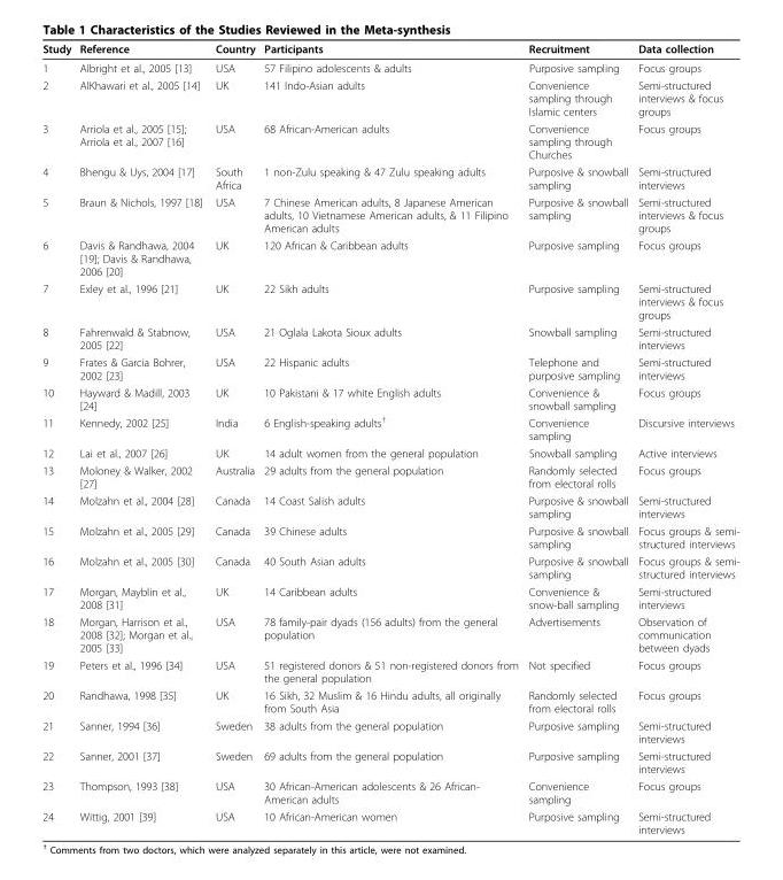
<table><thead><tr><td>Study</td><td>Reference</td><td>Country</td><td>Participants</td><td>Recruitment</td><td>Data collection</td></tr></thead><tbody><tr><td>1</td><td>Albright et al., 2005 [13]</td><td>USA</td><td>57 Filipino adolescents &amp; adults</td><td>Purposive sampling</td><td>Focus groups</td></tr><tr><td>2</td><td>AlKhawari et al., 2005 [14]</td><td>UK</td><td>141 Indo-Asian adults</td><td>Convenience sampling through Islamic centers</td><td>Semi-structured interviews &amp; focus groups</td></tr><tr><td>3</td><td>Arriola et al., 2005 [15]; Arriola et al., 2007 [16]</td><td>USA</td><td>68 African-American adults</td><td>Convenience sampling through Churches</td><td>Focus groups</td></tr><tr><td>4</td><td>Bhengu &amp; Uys, 2004 [17]</td><td>South Africa</td><td>1 non-Zulu speaking &amp; 47 Zulu speaking adults</td><td>Purposive &amp; snowball sampling</td><td>Semi-structured interviews</td></tr><tr><td>5</td><td>Braun &amp; Nichols, 1997 [18]</td><td>USA</td><td>7 Chinese American adults, 8 Japanese American adults, 10 Vietnamese American adults, &amp; 11 Filipino American adults</td><td>Purposive &amp; snowball sampling</td><td>Semi-structured interviews &amp; focus groups</td></tr><tr><td>6</td><td>Davis &amp; Randhawa, 2004 [19]; Davis &amp; Randhawa, 2006 [20]</td><td>UK</td><td>120 African &amp; Caribbean adults</td><td>Purposive sampling</td><td>Focus groups</td></tr><tr><td>7</td><td>Exley et al., 1996 [21]</td><td>UK</td><td>22 Sikh adults</td><td>Purposive sampling</td><td>Semi-structured interviews &amp; focus groups</td></tr><tr><td>8</td><td>Fahrenwald &amp; Stabnow, 2005 [22]</td><td>USA</td><td>21 Oglala Lakota Sioux adults</td><td>Snowball sampling</td><td>Semi-structured interviews</td></tr><tr><td>9</td><td>Frates &amp; Garcia Bohrer, 2002 [23]</td><td>USA</td><td>22 Hispanic adults</td><td>Telephone and purposive sampling</td><td>Semi-structured interviews</td></tr><tr><td>10</td><td>Hayward &amp; Madill, 2003 [24]</td><td>UK</td><td>10 Pakistani &amp; 17 white English adults</td><td>Convenience &amp; snowball sampling</td><td>Focus groups</td></tr><tr><td>11</td><td>Kennedy, 2002 [25]</td><td>India</td><td>6 English-speaking adults<sup>†</sup></td><td>Convenience sampling</td><td>Discursive interviews</td></tr><tr><td>12</td><td>Lai et al., 2007 [26]</td><td>UK</td><td>14 adult women from the general population</td><td>Snowball sampling</td><td>Active interviews</td></tr><tr><td>13</td><td>Moloney &amp; Walker, 2002 [27]</td><td>Australia</td><td>29 adults from the general population</td><td>Randomly selected from electoral rolls</td><td>Focus groups</td></tr><tr><td>14</td><td>Molzahn et al., 2004 [28]</td><td>Canada</td><td>14 Coast Salish adults</td><td>Purposive &amp; snowball sampling</td><td>Semi-structured interviews</td></tr><tr><td>15</td><td>Molzahn et al., 2005 [29]</td><td>Canada</td><td>39 Chinese adults</td><td>Purposive &amp; snowball sampling</td><td>Focus groups &amp; semi- structured interviews</td></tr><tr><td>16</td><td>Molzahn et al., 2005 [30]</td><td>Canada</td><td>40 South Asian adults</td><td>Purposive &amp; snowball sampling</td><td>Focus groups &amp; semi- structured interviews</td></tr><tr><td>17</td><td>Morgan, Mayblin et al., 2008 [31]</td><td>UK</td><td>14 Caribbean adults</td><td>Convenience &amp; snow-ball sampling</td><td>Semi-structured interviews</td></tr><tr><td>18</td><td>Morgan, Harrison et al., 2008 [32]; Morgan et al., 2005 [33]</td><td>USA</td><td>78 family-pair dyads (156 adults) from the general population</td><td>Advertisements</td><td>Observation of communication between dyads</td></tr><tr><td>19</td><td>Peters et al., 1996 [34]</td><td>USA</td><td>51 registered donors &amp; 51 non-registered donors from the general population</td><td>Not specified</td><td>Focus groups</td></tr><tr><td>20</td><td>Randhawa, 1998 [35]</td><td>UK</td><td>16 Sikh, 32 Muslim &amp; 16 Hindu adults, all originally from South Asia</td><td>Randomly selected from electoral rolls</td><td>Focus groups</td></tr><tr><td>21</td><td>Sanner, 1994 [36]</td><td>Sweden</td><td>38 adults from the general population</td><td>Purposive sampling</td><td>Semi-structured interviews</td></tr><tr><td>22</td><td>Sanner, 2001 [37]</td><td>Sweden</td><td>69 adults from the general population</td><td>Purposive sampling</td><td>Semi-structured interviews</td></tr><tr><td>23</td><td>Thompson, 1993 [38]</td><td>USA</td><td>30 African-American adolescents &amp; 26 African- American adults</td><td>Convenience sampling</td><td>Focus groups</td></tr><tr><td>24</td><td>Wittig, 2001 [39]</td><td>USA</td><td>10 African-American women</td><td>Purposive sampling</td><td>Semi-structured interviews</td></tr></tbody></table>